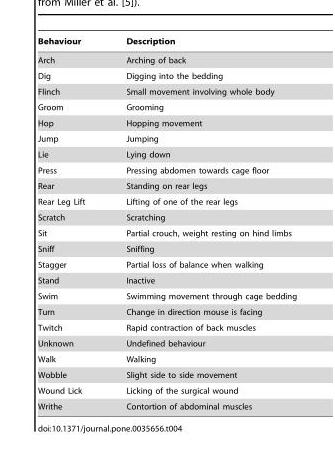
<table><thead><tr><td>Behaviour</td><td>Description</td></tr></thead><tbody><tr><td>Arch</td><td>Arching of back</td></tr><tr><td>Dig</td><td>Digging into the bedding</td></tr><tr><td>Flinch</td><td>Small movement involving whole body</td></tr><tr><td>Groom</td><td>Grooming</td></tr><tr><td>Hop</td><td>Hopping movement</td></tr><tr><td>Jump</td><td>Jumping</td></tr><tr><td>Lie</td><td>Lying down</td></tr><tr><td>Press</td><td>Pressing abdomen towards cage floor</td></tr><tr><td>Rear</td><td>Standing on rear legs</td></tr><tr><td>Rear Leg Lift</td><td>Lifting of one of the rear legs</td></tr><tr><td>Scratch</td><td>Scratching</td></tr><tr><td>Sit</td><td>Partial crouch, weight resting on hind limbs</td></tr><tr><td>Sniff</td><td>Sniffing</td></tr><tr><td>Stagger</td><td>Partial loss of balance when walking</td></tr><tr><td>Stand</td><td>Inactive</td></tr><tr><td>Swim</td><td>Swimming movement through cage bedding</td></tr><tr><td>Turn</td><td>Change in direction mouse is facing</td></tr><tr><td>Twitch</td><td>Rapid contraction of back muscles</td></tr><tr><td>Unknown</td><td>Undefined behaviour</td></tr><tr><td>Walk</td><td>Walking</td></tr><tr><td>Wobble</td><td>Slight side to side movement</td></tr><tr><td>Wound Lick</td><td>Licking of the surgical wound</td></tr><tr><td>Writhe</td><td>Contortion of abdominal muscles</td></tr></tbody></table>